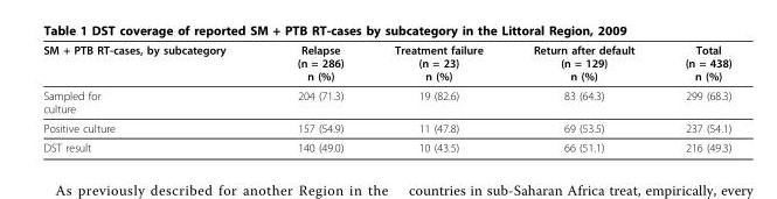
<table><thead><tr><td>SM + PTB RT-cases, by subcategory</td><td>Relapse (n = 286) n (%)</td><td>Treatment failure (n = 23) n (%)</td><td>Return after default (n = 129) n (%)</td><td>Total (n = 438) n (%)</td></tr></thead><tbody><tr><td>Sampled for culture</td><td>204 (71.3)</td><td>19 (82.6)</td><td>83 (64.3)</td><td>299 (68.3)</td></tr><tr><td>Positive culture</td><td>157 (54.9)</td><td>11 (47.8)</td><td>69 (53.5)</td><td>237 (54.1)</td></tr><tr><td>DST result</td><td>140 (49.0)</td><td>10 (43.5)</td><td>66 (51.1)</td><td>216 (49.3)</td></tr></tbody></table>